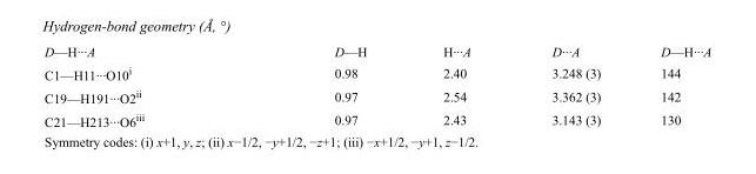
<table><tbody><tr><td>D—H···A</td><td>D—H</td><td>H···A</td><td>D···A</td><td>D—H···A</td></tr><tr><td>C1—H11···O10<sup>i</sup></td><td>0.98</td><td>2.40</td><td>3.248 (3)</td><td>144</td></tr><tr><td>C19—H191···O2<sup>ii</sup></td><td>0.97</td><td>2.54</td><td>3.362 (3)</td><td>142</td></tr><tr><td>C21—H213···O6<sup>iii</sup></td><td>0.97</td><td>2.43</td><td>3.143 (3)</td><td>130</td></tr></tbody></table>